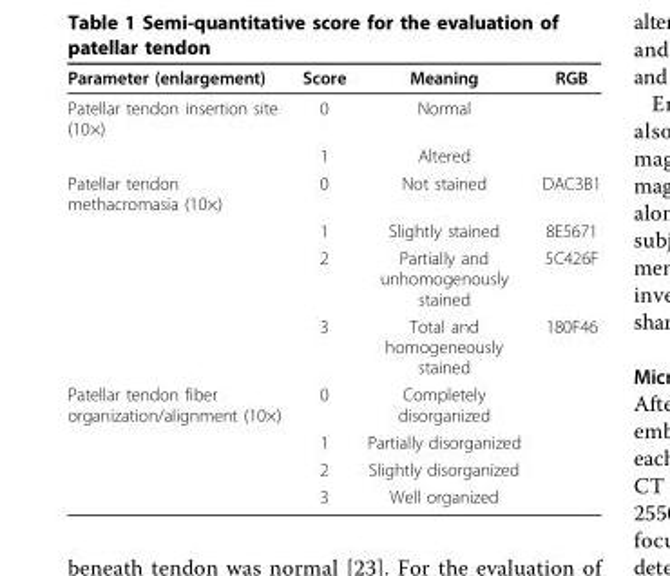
<table><thead><tr><td>Parameter (enlargement)</td><td>Score</td><td>Meaning</td><td>RGB</td></tr></thead><tbody><tr><td rowspan="2">Patellar tendon insertion site (10×)</td><td>0</td><td>Normal</td><td></td></tr><tr><td>1</td><td>Altered</td><td></td></tr><tr><td rowspan="4">Patellar tendon methacromasia (10×)</td><td>0</td><td>Not stained</td><td>DAC3B1</td></tr><tr><td>1</td><td>Slightly stained</td><td>8E5671</td></tr><tr><td>2</td><td>Partially and unhomogenously stained</td><td>5C426F</td></tr><tr><td>3</td><td>Total and homogeneously stained</td><td>180F46</td></tr><tr><td rowspan="4">Patellar tendon fiber organization/alignment (10×)</td><td>0</td><td>Completely disorganized</td><td></td></tr><tr><td>1</td><td>Partially disorganized</td><td></td></tr><tr><td>2</td><td>Slightly disorganized</td><td></td></tr><tr><td>3</td><td>Well organized</td><td></td></tr></tbody></table>